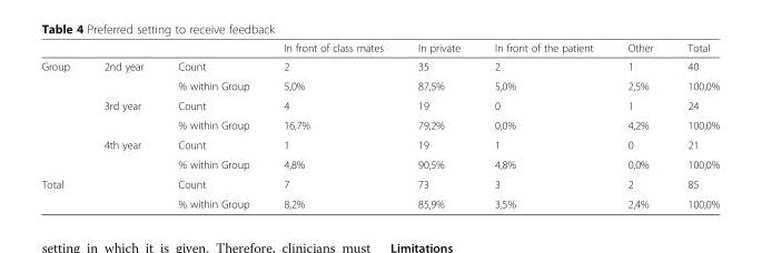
<table><thead><tr><td></td><td></td><td></td><td>In front of class mates</td><td>In private</td><td>In front of the patient</td><td>Other</td><td>Total</td></tr></thead><tbody><tr><td rowspan="6">Group</td><td rowspan="2">2nd year</td><td>Count</td><td>2</td><td>35</td><td>2</td><td>1</td><td>40</td></tr><tr><td>% within Group</td><td>5,0%</td><td>87,5%</td><td>5,0%</td><td>2,5%</td><td>100,0%</td></tr><tr><td rowspan="2">3rd year</td><td>Count</td><td>4</td><td>19</td><td>0</td><td>1</td><td>24</td></tr><tr><td>% within Group</td><td>16,7%</td><td>79,2%</td><td>0,0%</td><td>4,2%</td><td>100,0%</td></tr><tr><td rowspan="2">4th year</td><td>Count</td><td>1</td><td>19</td><td>1</td><td>0</td><td>21</td></tr><tr><td>% within Group</td><td>4,8%</td><td>90,5%</td><td>4,8%</td><td>0,0%</td><td>100,0%</td></tr><tr><td rowspan="2" colspan="2">Total</td><td>Count</td><td>7</td><td>73</td><td>3</td><td>2</td><td>85</td></tr><tr><td>% within Group</td><td>8,2%</td><td>85,9%</td><td>3,5%</td><td>2,4%</td><td>100,0%</td></tr></tbody></table>